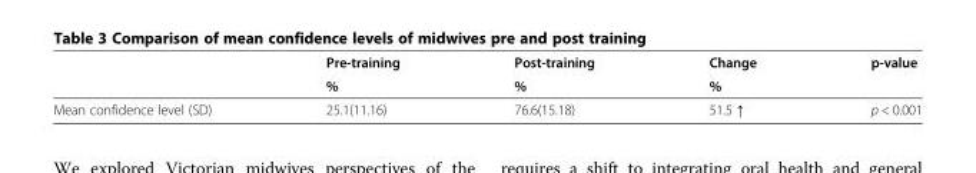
<table><thead><tr><td rowspan="2"></td><td rowspan="2">Pre-training %</td><td rowspan="2">Post-training %</td><td rowspan="2">Change %</td><td rowspan="2">p-value</td></tr><tr></tr></thead><tbody><tr><td>Mean confidence level (SD)</td><td>25.1(11.16)</td><td>76.6(15.18)</td><td>51.5 ↑</td><td>p &lt; 0.001</td></tr></tbody></table>